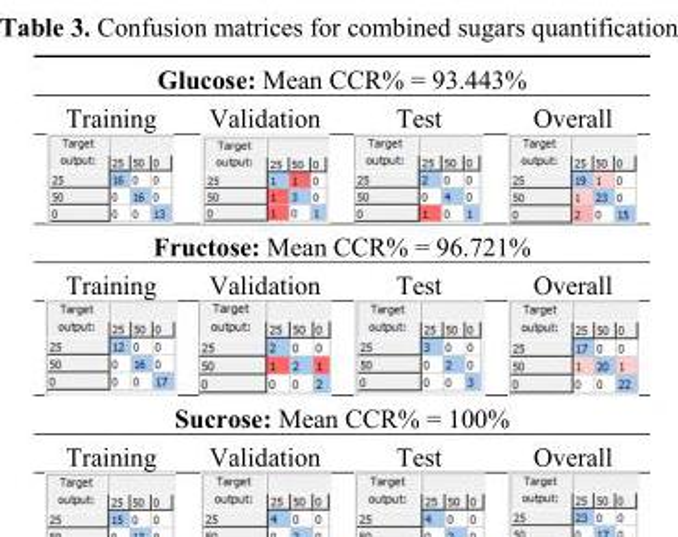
<table><tbody><tr><td colspan="4">Glucose: Mean CCR% = 93.443%</td></tr><tr><td>Training</td><td>Validation</td><td>Test</td><td>Overall</td></tr><tr><td colspan="4">Fructose: Mean CCR% = 96.721%</td></tr><tr><td>Training</td><td>Validation</td><td>Test</td><td>Overall</td></tr><tr><td colspan="4">Sucrose: Mean CCR% = 100%</td></tr><tr><td>Training</td><td>Validation</td><td>Test</td><td>Overall</td></tr></tbody></table>